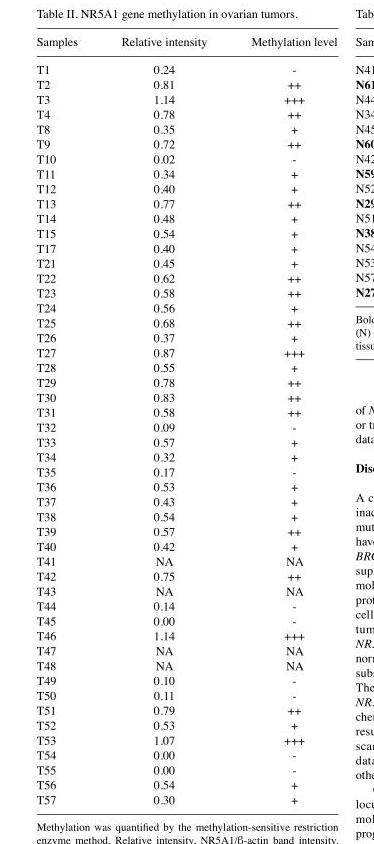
<table><thead><tr><td>Samples</td><td>Relative intensity</td><td>Methylation level</td></tr></thead><tbody><tr><td>T1</td><td>0.24</td><td>-</td></tr><tr><td>T2</td><td>0.81</td><td>++</td></tr><tr><td>T3</td><td>1.14</td><td>+++</td></tr><tr><td>T4</td><td>0.78</td><td>++</td></tr><tr><td>T8</td><td>0.35</td><td>+</td></tr><tr><td>T9</td><td>0.72</td><td>++</td></tr><tr><td>T10</td><td>0.02</td><td>-</td></tr><tr><td>T11</td><td>0.34</td><td>+</td></tr><tr><td>T12</td><td>0.40</td><td>+</td></tr><tr><td>T13</td><td>0.77</td><td>++</td></tr><tr><td>T14</td><td>0.48</td><td>+</td></tr><tr><td>T15</td><td>0.54</td><td>+</td></tr><tr><td>T17</td><td>0.40</td><td>+</td></tr><tr><td>T21</td><td>0.45</td><td>+</td></tr><tr><td>T22</td><td>0.62</td><td>++</td></tr><tr><td>T23</td><td>0.58</td><td>++</td></tr><tr><td>T24</td><td>0.56</td><td>+</td></tr><tr><td>T25</td><td>0.68</td><td>++</td></tr><tr><td>T26</td><td>0.37</td><td>+</td></tr><tr><td>T27</td><td>0.87</td><td>+++</td></tr><tr><td>T28</td><td>0.55</td><td>+</td></tr><tr><td>T29</td><td>0.78</td><td>++</td></tr><tr><td>T30</td><td>0.83</td><td>++</td></tr><tr><td>T31</td><td>0.58</td><td>++</td></tr><tr><td>T32</td><td>0.09</td><td>-</td></tr><tr><td>T33</td><td>0.57</td><td>+</td></tr><tr><td>T34</td><td>0.32</td><td>+</td></tr><tr><td>T35</td><td>0.17</td><td>-</td></tr><tr><td>T36</td><td>0.53</td><td>+</td></tr><tr><td>T37</td><td>0.43</td><td>+</td></tr><tr><td>T38</td><td>0.54</td><td>+</td></tr><tr><td>T39</td><td>0.57</td><td>++</td></tr><tr><td>T40</td><td>0.42</td><td>+</td></tr><tr><td>T41</td><td>NA</td><td>NA</td></tr><tr><td>T42</td><td>0.75</td><td>++</td></tr><tr><td>T43</td><td>NA</td><td>NA</td></tr><tr><td>T44</td><td>0.14</td><td>-</td></tr><tr><td>T45</td><td>0.00</td><td>-</td></tr><tr><td>T46</td><td>1.14</td><td>+++</td></tr><tr><td>T47</td><td>NA</td><td>NA</td></tr><tr><td>T48</td><td>NA</td><td>NA</td></tr><tr><td>T49</td><td>0.10</td><td>-</td></tr><tr><td>T50</td><td>0.11</td><td>-</td></tr><tr><td>T51</td><td>0.79</td><td>++</td></tr><tr><td>T52</td><td>0.53</td><td>+</td></tr><tr><td>T53</td><td>1.07</td><td>+++</td></tr><tr><td>T54</td><td>0.00</td><td>-</td></tr><tr><td>T55</td><td>0.00</td><td>-</td></tr><tr><td>T56</td><td>0.54</td><td>+</td></tr><tr><td>T57</td><td>0.30</td><td>+</td></tr></tbody></table>